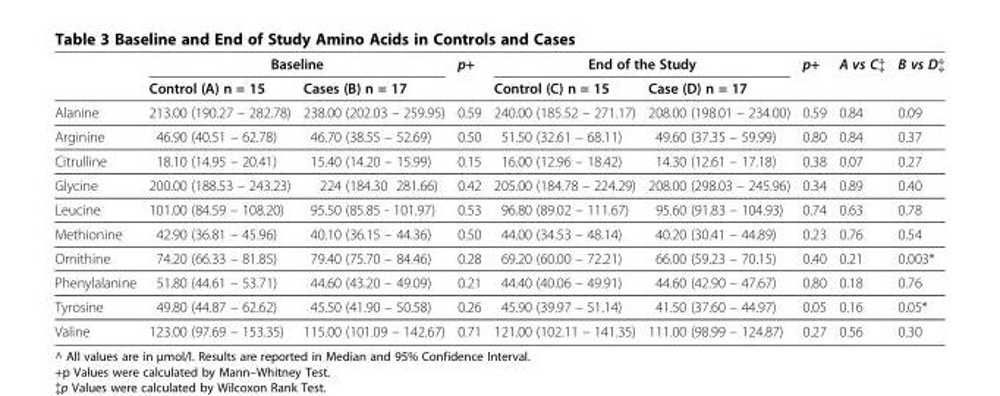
<table><thead><tr><td rowspan="2"></td><td colspan="2">Baseline</td><td rowspan="2">p+</td><td colspan="2">End of the Study</td><td rowspan="2">p+</td><td rowspan="2">A vs C‡</td><td rowspan="2">B vs D‡</td></tr><tr><td>Control (A) n = 15</td><td>Cases (B) n = 17</td><td>Control (C) n = 15</td><td>Case (D) n = 17</td></tr></thead><tbody><tr><td>Alanine</td><td>213.00 (190.27 – 282.78)</td><td>238.00 (202.03 – 259.95)</td><td>0.59</td><td>240.00 (185.52 – 271.17)</td><td>208.00 (198.01 – 234.00)</td><td>0.59</td><td>0.84</td><td>0.09</td></tr><tr><td>Arginine</td><td>46.90 (40.51 – 62.78)</td><td>46.70 (38.55 – 52.69)</td><td>0.50</td><td>51.50 (32.61 – 68.11)</td><td>49.60 (37.35 – 59.99)</td><td>0.80</td><td>0.84</td><td>0.37</td></tr><tr><td>Citrulline</td><td>18.10 (14.95 – 20.41)</td><td>15.40 (14.20 – 15.99)</td><td>0.15</td><td>16.00 (12.96 – 18.42)</td><td>14.30 (12.61 – 17.18)</td><td>0.38</td><td>0.07</td><td>0.27</td></tr><tr><td>Glycine</td><td>200.00 (188.53 – 243.23)</td><td>224 (184.30 281.66)</td><td>0.42</td><td>205.00 (184.78 – 224.29)</td><td>208.00 (298.03 – 245.96)</td><td>0.34</td><td>0.89</td><td>0.40</td></tr><tr><td>Leucine</td><td>101.00 (84.59 – 108.20)</td><td>95.50 (85.85 - 101.97)</td><td>0.53</td><td>96.80 (89.02 – 111.67)</td><td>95.60 (91.83 – 104.93)</td><td>0.74</td><td>0.63</td><td>0.78</td></tr><tr><td>Methionine</td><td>42.90 (36.81 – 45.96)</td><td>40.10 (36.15 – 44.36)</td><td>0.50</td><td>44.00 (34.53 – 48.14)</td><td>40.20 (30.41 – 44.89)</td><td>0.23</td><td>0.76</td><td>0.54</td></tr><tr><td>Ornithine</td><td>74.20 (66.33 – 81.85)</td><td>79.40 (75.70 – 84.46)</td><td>0.28</td><td>69.20 (60.00 – 72.21)</td><td>66.00 (59.23 – 70.15)</td><td>0.40</td><td>0.21</td><td>0.003*</td></tr><tr><td>Phenylalanine</td><td>51.80 (44.61 – 53.71)</td><td>44.60 (43.20 – 49.09)</td><td>0.21</td><td>44.40 (40.06 – 49.91)</td><td>44.60 (42.90 – 47.67)</td><td>0.80</td><td>0.18</td><td>0.76</td></tr><tr><td>Tyrosine</td><td>49.80 (44.87 – 62.62)</td><td>45.50 (41.90 – 50.58)</td><td>0.26</td><td>45.90 (39.97 – 51.14)</td><td>41.50 (37.60 – 44.97)</td><td>0.05</td><td>0.16</td><td>0.05*</td></tr><tr><td>Valine</td><td>123.00 (97.69 – 153.35)</td><td>115.00 (101.09 – 142.67)</td><td>0.71</td><td>121.00 (102.11 – 141.35)</td><td>111.00 (98.99 – 124.87)</td><td>0.27</td><td>0.56</td><td>0.30</td></tr></tbody></table>